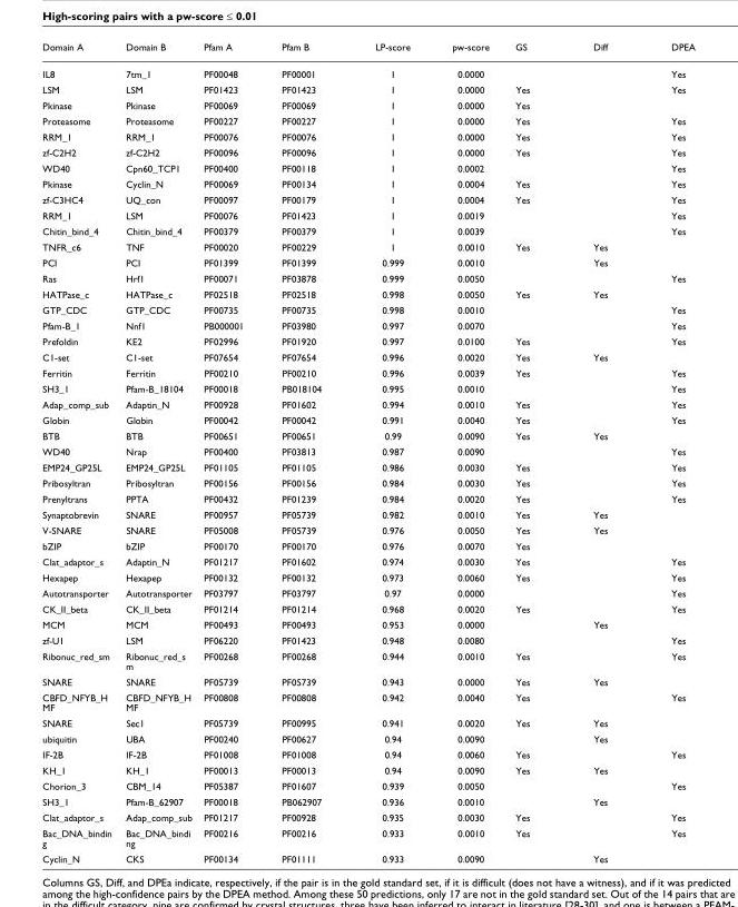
<table><thead><tr><td>Domain A</td><td>Domain B</td><td>Pfam A</td><td>Pfam B</td><td>LP-score</td><td>pw-score</td><td>GS</td><td>Diff</td><td>DPEA</td></tr></thead><tbody><tr><td>IL8</td><td>7tm_1</td><td>PF00048</td><td>PF00001</td><td>1</td><td>0.0000</td><td></td><td></td><td>Yes</td></tr><tr><td>LSM</td><td>LSM</td><td>PF01423</td><td>PF01423</td><td>1</td><td>0.0000</td><td>Yes</td><td></td><td>Yes</td></tr><tr><td>Pkinase</td><td>Pkinase</td><td>PF00069</td><td>PF00069</td><td>1</td><td>0.0000</td><td>Yes</td><td></td><td></td></tr><tr><td>Proteasome</td><td>Proteasome</td><td>PF00227</td><td>PF00227</td><td>1</td><td>0.0000</td><td>Yes</td><td></td><td>Yes</td></tr><tr><td>RRM_1</td><td>RRM_1</td><td>PF00076</td><td>PF00076</td><td>1</td><td>0.0000</td><td>Yes</td><td></td><td>Yes</td></tr><tr><td>zf-C2H2</td><td>zf-C2H2</td><td>PF00096</td><td>PF00096</td><td>1</td><td>0.0000</td><td>Yes</td><td></td><td>Yes</td></tr><tr><td>WD40</td><td>Cpn60_TCP1</td><td>PF00400</td><td>PF00118</td><td>1</td><td>0.0002</td><td></td><td></td><td>Yes</td></tr><tr><td>Pkinase</td><td>Cyclin_N</td><td>PF00069</td><td>PF00134</td><td>1</td><td>0.0004</td><td>Yes</td><td></td><td>Yes</td></tr><tr><td>zf-C3HC4</td><td>UQ_con</td><td>PF00097</td><td>PF00179</td><td>1</td><td>0.0004</td><td>Yes</td><td></td><td>Yes</td></tr><tr><td>RRM_1</td><td>LSM</td><td>PF00076</td><td>PF01423</td><td>1</td><td>0.0019</td><td></td><td></td><td>Yes</td></tr><tr><td>Chitin_bind_4</td><td>Chitin_bind_4</td><td>PF00379</td><td>PF00379</td><td>1</td><td>0.0039</td><td></td><td></td><td>Yes</td></tr><tr><td>TNFR_c6</td><td>TNF</td><td>PF00020</td><td>PF00229</td><td>1</td><td>0.0010</td><td>Yes</td><td>Yes</td><td></td></tr><tr><td>PCI</td><td>PCI</td><td>PF01399</td><td>PF01399</td><td>0.999</td><td>0.0010</td><td></td><td>Yes</td><td></td></tr><tr><td>Ras</td><td>Hrf1</td><td>PF00071</td><td>PF03878</td><td>0.999</td><td>0.0050</td><td></td><td></td><td>Yes</td></tr><tr><td>HATPase_c</td><td>HATPase_c</td><td>PF02518</td><td>PF02518</td><td>0.998</td><td>0.0050</td><td>Yes</td><td>Yes</td><td></td></tr><tr><td>GTP_CDC</td><td>GTP_CDC</td><td>PF00735</td><td>PF00735</td><td>0.998</td><td>0.0010</td><td></td><td></td><td>Yes</td></tr><tr><td>Pfam-B_1</td><td>Nnf1</td><td>PB000001</td><td>PF03980</td><td>0.997</td><td>0.0070</td><td></td><td></td><td>Yes</td></tr><tr><td>Prefoldin</td><td>KE2</td><td>PF02996</td><td>PF01920</td><td>0.997</td><td>0.0100</td><td>Yes</td><td></td><td>Yes</td></tr><tr><td>C1-set</td><td>C1-set</td><td>PF07654</td><td>PF07654</td><td>0.996</td><td>0.0020</td><td>Yes</td><td>Yes</td><td></td></tr><tr><td>Ferritin</td><td>Ferritin</td><td>PF00210</td><td>PF00210</td><td>0.996</td><td>0.0039</td><td>Yes</td><td></td><td>Yes</td></tr><tr><td>SH3_1</td><td>Pfam-B_18104</td><td>PF00018</td><td>PB018104</td><td>0.995</td><td>0.0010</td><td></td><td></td><td>Yes</td></tr><tr><td>Adap_comp_sub</td><td>Adaptin_N</td><td>PF00928</td><td>PF01602</td><td>0.994</td><td>0.0010</td><td>Yes</td><td></td><td>Yes</td></tr><tr><td>Globin</td><td>Globin</td><td>PF00042</td><td>PF00042</td><td>0.991</td><td>0.0040</td><td>Yes</td><td></td><td>Yes</td></tr><tr><td>BTB</td><td>BTB</td><td>PF00651</td><td>PF00651</td><td>0.99</td><td>0.0090</td><td>Yes</td><td>Yes</td><td></td></tr><tr><td>WD40</td><td>Nrap</td><td>PF00400</td><td>PF03813</td><td>0.987</td><td>0.0090</td><td></td><td></td><td>Yes</td></tr><tr><td>EMP24_GP25L</td><td>EMP24_GP25L</td><td>PF01105</td><td>PF01105</td><td>0.986</td><td>0.0030</td><td>Yes</td><td></td><td>Yes</td></tr><tr><td>Pribosyltran</td><td>Pribosyltran</td><td>PF00156</td><td>PF00156</td><td>0.984</td><td>0.0030</td><td>Yes</td><td></td><td>Yes</td></tr><tr><td>Prenyltrans</td><td>PPTA</td><td>PF00432</td><td>PF01239</td><td>0.984</td><td>0.0020</td><td>Yes</td><td></td><td>Yes</td></tr><tr><td>Synaptobrevin</td><td>SNARE</td><td>PF00957</td><td>PF05739</td><td>0.982</td><td>0.0010</td><td>Yes</td><td>Yes</td><td></td></tr><tr><td>V-SNARE</td><td>SNARE</td><td>PF05008</td><td>PF05739</td><td>0.976</td><td>0.0050</td><td>Yes</td><td>Yes</td><td></td></tr><tr><td>bZIP</td><td>bZIP</td><td>PF00170</td><td>PF00170</td><td>0.976</td><td>0.0070</td><td>Yes</td><td></td><td></td></tr><tr><td>Clat_adaptor_s</td><td>Adaptin_N</td><td>PF01217</td><td>PF01602</td><td>0.974</td><td>0.0030</td><td>Yes</td><td></td><td>Yes</td></tr><tr><td>Hexapep</td><td>Hexapep</td><td>PF00132</td><td>PF00132</td><td>0.973</td><td>0.0060</td><td>Yes</td><td></td><td>Yes</td></tr><tr><td>Autotransporter</td><td>Autotransporter</td><td>PF03797</td><td>PF03797</td><td>0.97</td><td>0.0000</td><td></td><td></td><td>Yes</td></tr><tr><td>CK_II_beta</td><td>CK_II_beta</td><td>PF01214</td><td>PF01214</td><td>0.968</td><td>0.0020</td><td>Yes</td><td></td><td>Yes</td></tr><tr><td>MCM</td><td>MCM</td><td>PF00493</td><td>PF00493</td><td>0.953</td><td>0.0000</td><td></td><td>Yes</td><td></td></tr><tr><td>zf-U1</td><td>LSM</td><td>PF06220</td><td>PF01423</td><td>0.948</td><td>0.0080</td><td></td><td></td><td>Yes</td></tr><tr><td>Ribonuc_red_sm</td><td>Ribonuc_red_s m</td><td>PF00268</td><td>PF00268</td><td>0.944</td><td>0.0010</td><td>Yes</td><td></td><td>Yes</td></tr><tr><td>SNARE</td><td>SNARE</td><td>PF05739</td><td>PF05739</td><td>0.943</td><td>0.0000</td><td>Yes</td><td>Yes</td><td></td></tr><tr><td>CBFD_NFYB_H MF</td><td>CBFD_NFYB_H MF</td><td>PF00808</td><td>PF00808</td><td>0.942</td><td>0.0040</td><td>Yes</td><td></td><td>Yes</td></tr><tr><td>SNARE</td><td>Sec1</td><td>PF05739</td><td>PF00995</td><td>0.941</td><td>0.0020</td><td>Yes</td><td>Yes</td><td></td></tr><tr><td>ubiquitin</td><td>UBA</td><td>PF00240</td><td>PF00627</td><td>0.94</td><td>0.0090</td><td></td><td>Yes</td><td></td></tr><tr><td>IF-2B</td><td>IF-2B</td><td>PF01008</td><td>PF01008</td><td>0.94</td><td>0.0060</td><td>Yes</td><td></td><td>Yes</td></tr><tr><td>KH_1</td><td>KH_1</td><td>PF00013</td><td>PF00013</td><td>0.94</td><td>0.0090</td><td>Yes</td><td>Yes</td><td></td></tr><tr><td>Chorion_3</td><td>CBM_14</td><td>PF05387</td><td>PF01607</td><td>0.939</td><td>0.0050</td><td></td><td></td><td>Yes</td></tr><tr><td>SH3_1</td><td>Pfam-B_62907</td><td>PF00018</td><td>PB062907</td><td>0.936</td><td>0.0010</td><td></td><td>Yes</td><td></td></tr><tr><td>Clat_adaptor_s</td><td>Adap_comp_sub</td><td>PF01217</td><td>PF00928</td><td>0.935</td><td>0.0030</td><td>Yes</td><td></td><td>Yes</td></tr><tr><td>Bac_DNA_bindin g</td><td>Bac_DNA_bindi ng</td><td>PF00216</td><td>PF00216</td><td>0.933</td><td>0.0010</td><td>Yes</td><td></td><td>Yes</td></tr><tr><td>Cyclin_N</td><td>CKS</td><td>PF00134</td><td>PF01111</td><td>0.933</td><td>0.0090</td><td></td><td>Yes</td><td></td></tr></tbody></table>